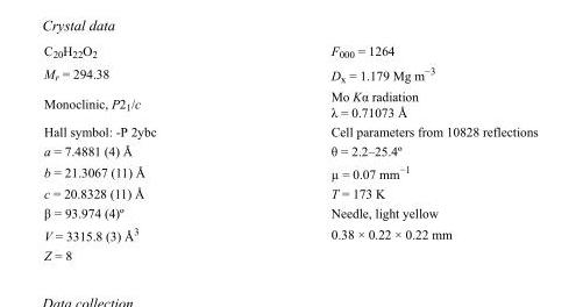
<table><tbody><tr><td>C<sub>20</sub>H<sub>22</sub>O<sub>2</sub></td><td>F000 = 1264</td></tr><tr><td>M<sub>r</sub> = 294.38</td><td>D<sub>x</sub> = 1.179 Mg m<sup>−3</sup></td></tr><tr><td>Monoclinic, P2<sub>1</sub>/c</td><td>Mo Kα radiation λ = 0.71073 Å</td></tr><tr><td>Hall symbol: -P 2ybc</td><td>Cell parameters from 10828 reflections</td></tr><tr><td>a = 7.4881 (4) Å</td><td>θ = 2.2–25.4º</td></tr><tr><td>b = 21.3067 (11) Å</td><td>µ = 0.07 mm<sup>−1</sup></td></tr><tr><td>c = 20.8328 (11) Å</td><td>T = 173 K</td></tr><tr><td>β = 93.974 (4)º</td><td>Needle, light yellow</td></tr><tr><td>V = 3315.8 (3) Å<sup>3</sup></td><td>0.38 × 0.22 × 0.22 mm</td></tr><tr><td>Z = 8</td><td></td></tr></tbody></table>